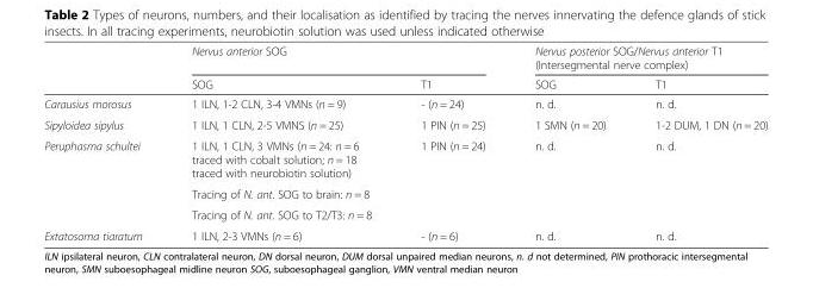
<table><thead><tr><td rowspan="2"></td><td colspan="2">Nervus anterior SOG</td><td colspan="2">Nervus posterior SOG/Nervus anterior T1 (Intersegmental nerve complex)</td></tr><tr><td>SOG</td><td>T1</td><td>SOG</td><td>T1</td></tr></thead><tbody><tr><td>Carausius morosus</td><td>1 ILN, 1-2 CLN, 3-4 VMNs (n = 9)</td><td>- (n = 24)</td><td>n. d.</td><td>n. d.</td></tr><tr><td>Sipyloidea sipylus</td><td>1 ILN, 1 CLN, 2-5 VMNS (n = 25)</td><td>1 PIN (n = 25)</td><td>1 SMN (n = 20)</td><td>1-2 DUM, 1 DN (n = 20)</td></tr><tr><td rowspan="3">Peruphasma schultei</td><td>1 ILN, 1 CLN, 3 VMNs (n = 24: n = 6 traced with cobalt solution; n = 18 traced with neurobiotin solution)</td><td rowspan="3">1 PIN (n = 24)</td><td rowspan="3">n. d.</td><td rowspan="3">n. d.</td></tr><tr><td>Tracing of N. ant. SOG to brain: n = 8</td></tr><tr><td>Tracing of N. ant. SOG to T2/T3: n = 8</td></tr><tr><td>Extatosoma tiaratum</td><td>1 ILN, 2-3 VMNs (n = 6)</td><td>- (n = 6)</td><td>n. d.</td><td>n. d.</td></tr></tbody></table>